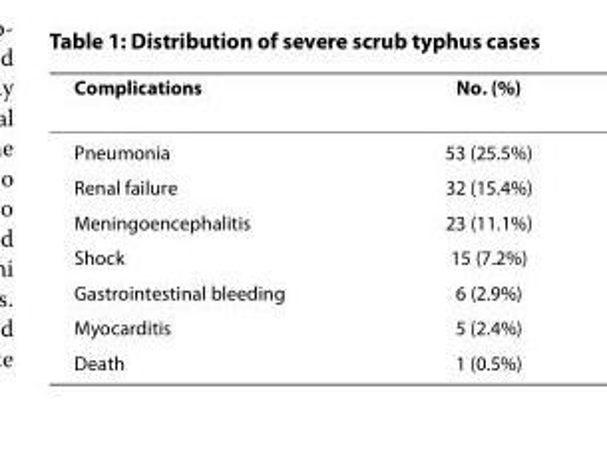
<table><thead><tr><td>Complications</td><td>No. (%)</td></tr></thead><tbody><tr><td>Pneumonia</td><td>53 (25.5%)</td></tr><tr><td>Renal failure</td><td>32 (15.4%)</td></tr><tr><td>Meningoencephalitis</td><td>23 (11.1%)</td></tr><tr><td>Shock</td><td>15 (7.2%)</td></tr><tr><td>Gastrointestinal bleeding</td><td>6 (2.9%)</td></tr><tr><td>Myocarditis</td><td>5 (2.4%)</td></tr><tr><td>Death</td><td>1 (0.5%)</td></tr></tbody></table>